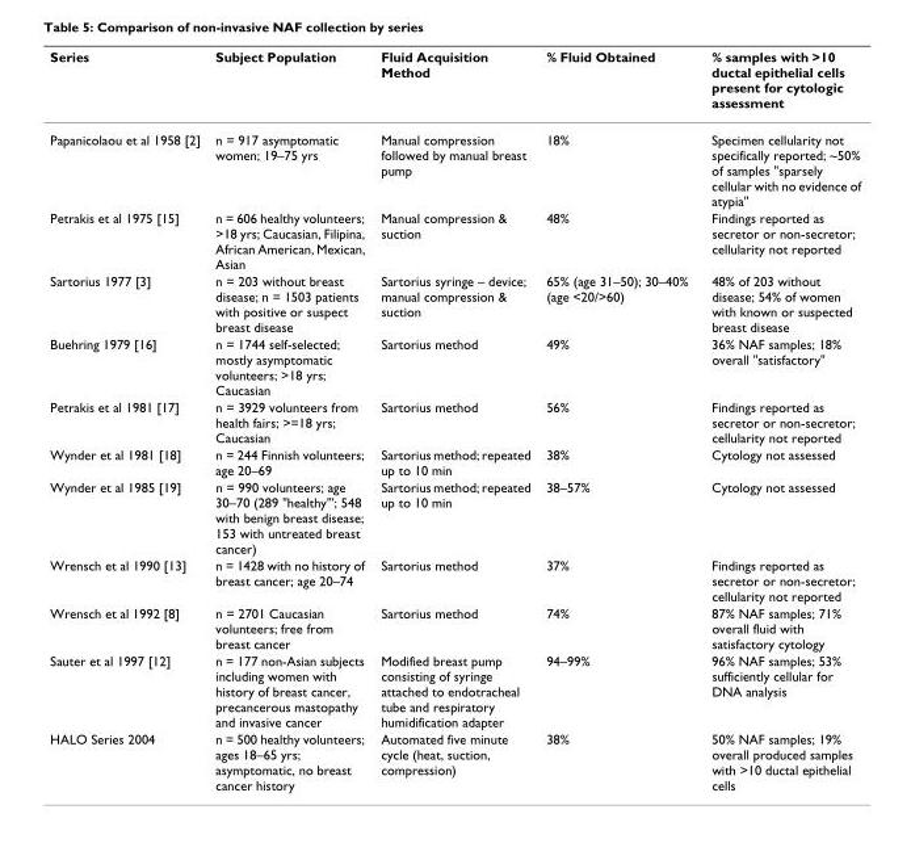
<table><thead><tr><td>Series</td><td>Subject Population</td><td>Fluid Acquisition Method</td><td>% Fluid Obtained</td><td>% samples with &gt;10 ductal epithelial cells present for cytologic assessment</td></tr></thead><tbody><tr><td>Papanicolaou et al 1958 [2]</td><td>n = 917 asymptomatic women; 19–75 yrs</td><td>Manual compression followed by manual breast pump</td><td>18%</td><td>Specimen cellularity not specifically reported; ~50% of samples &quot;sparsely cellular with no evidence of atypia&quot;</td></tr><tr><td>Petrakis et al 1975 [15]</td><td>n = 606 healthy volunteers; &gt;18 yrs; Caucasian, Filipina, African American, Mexican, Asian</td><td>Manual compression &amp; suction</td><td>48%</td><td>Findings reported as secretor or non-secretor; cellularity not reported</td></tr><tr><td>Sartorius 1977 [3]</td><td>n = 203 without breast disease; n = 1503 patients with positive or suspect breast disease</td><td>Sartorius syringe – device; manual compression &amp; suction</td><td>65% (age 31–50); 30–40% (age &lt;20/&gt;60)</td><td>48% of 203 without disease; 54% of women with known or suspected breast disease</td></tr><tr><td>Buehring 1979 [16]</td><td>n = 1744 self-selected; mostly asymptomatic volunteers; &gt;18 yrs; Caucasian</td><td>Sartorius method</td><td>49%</td><td>36% NAF samples; 18% overall &quot;satisfactory&quot;</td></tr><tr><td>Petrakis et al 1981 [17]</td><td>n = 3929 volunteers from health fairs; &gt;=18 yrs; Caucasian</td><td>Sartorius method</td><td>56%</td><td>Findings reported as secretor or non-secretor; cellularity not reported</td></tr><tr><td>Wynder et al 1981 [18]</td><td>n = 244 Finnish volunteers; age 20–69</td><td>Sartorius method; repeated up to 10 min</td><td>38%</td><td>Cytology not assessed</td></tr><tr><td>Wynder et al 1985 [19]</td><td>n = 990 volunteers; age 30–70 (289 &quot;healthy&quot;&#x27;; 548 with benign breast disease; 153 with untreated breast cancer)</td><td>Sartorius method; repeated up to 10 min</td><td>38–57%</td><td>Cytology not assessed</td></tr><tr><td>Wrensch et al 1990 [13]</td><td>n = 1428 with no history of breast cancer; age 20–74</td><td>Sartorius method</td><td>37%</td><td>Findings reported as secretor or non-secretor; cellularity not reported</td></tr><tr><td>Wrensch et al 1992 [8]</td><td>n = 2701 Caucasian volunteers; free from breast cancer</td><td>Sartorius method</td><td>74%</td><td>87% NAF samples; 71% overall fluid with satisfactory cytology</td></tr><tr><td>Sauter et al 1997 [12]</td><td>n = 177 non-Asian subjects including women with history of breast cancer, precancerous mastopathy and invasive cancer</td><td>Modified breast pump consisting of syringe attached to endotracheal tube and respiratory humidification adapter</td><td>94–99%</td><td>96% NAF samples; 53% sufficiently cellular for DNA analysis</td></tr><tr><td>HALO Series 2004</td><td>n = 500 healthy volunteers; ages 18–65 yrs; asymptomatic, no breast cancer history</td><td>Automated five minute cycle (heat, suction, compression)</td><td>38%</td><td>50% NAF samples; 19% overall produced samples with &gt;10 ductal epithelial cells</td></tr></tbody></table>